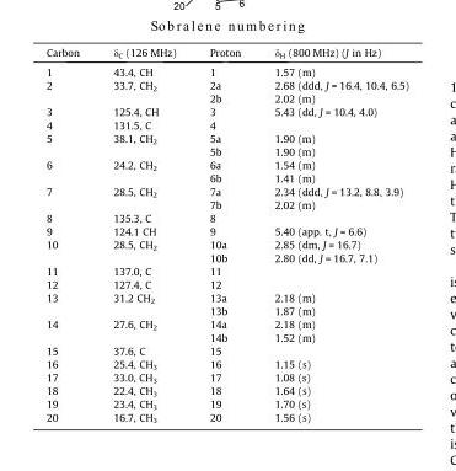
<table><thead><tr><td>Carbon</td><td>δ<sub>C</sub> (126 MHz)</td><td>Proton</td><td>δ<sub>H</sub> (800 MHz) (J in Hz)</td></tr></thead><tbody><tr><td>1</td><td>43.4, CH</td><td>1</td><td>1.57 (m)</td></tr><tr><td rowspan="2">2</td><td rowspan="2">33.7, CH<sub>2</sub></td><td>2a</td><td>2.68 (ddd, J = 16.4, 10.4, 6.5)</td></tr><tr><td>2b</td><td>2.02 (m)</td></tr><tr><td>3</td><td>125.4, CH</td><td>3</td><td>5.43 (dd, J = 10.4, 4.0)</td></tr><tr><td>4</td><td>131.5, C</td><td>4</td><td></td></tr><tr><td rowspan="2">5</td><td rowspan="2">38.1, CH<sub>2</sub></td><td>5a</td><td>1.90 (m)</td></tr><tr><td>5b</td><td>1.90 (m)</td></tr><tr><td rowspan="2">6</td><td rowspan="2">24.2, CH<sub>2</sub></td><td>6a</td><td>1.54 (m)</td></tr><tr><td>6b</td><td>1.41 (m)</td></tr><tr><td rowspan="2">7</td><td rowspan="2">28.5, CH<sub>2</sub></td><td>7a</td><td>2.34 (ddd, J = 13.2, 8.8, 3.9)</td></tr><tr><td>7b</td><td>2.02 (m)</td></tr><tr><td>8</td><td>135.3, C</td><td>8</td><td></td></tr><tr><td>9</td><td>124.1 CH</td><td>9</td><td>5.40 (app. t, J = 6.6)</td></tr><tr><td rowspan="2">10</td><td rowspan="2">28.5, CH<sub>2</sub></td><td>10a</td><td>2.85 (dm, J = 16.7)</td></tr><tr><td>10b</td><td>2.80 (dd, J = 16.7, 7.1)</td></tr><tr><td>11</td><td>137.0, C</td><td>11</td><td></td></tr><tr><td>12</td><td>127.4, C</td><td>12</td><td></td></tr><tr><td rowspan="2">13</td><td rowspan="2">31.2 CH<sub>2</sub></td><td>13a</td><td>2.18 (m)</td></tr><tr><td>13b</td><td>1.87 (m)</td></tr><tr><td rowspan="2">14</td><td rowspan="2">27.6, CH<sub>2</sub></td><td>14a</td><td>2.18 (m)</td></tr><tr><td>14b</td><td>1.52 (m)</td></tr><tr><td>15</td><td>37.6, C</td><td>15</td><td></td></tr><tr><td>16</td><td>25.4, CH<sub>3</sub></td><td>16</td><td>1.15 (s)</td></tr><tr><td>17</td><td>33.0, CH<sub>3</sub></td><td>17</td><td>1.08 (s)</td></tr><tr><td>18</td><td>22.4, CH<sub>3</sub></td><td>18</td><td>1.64 (s)</td></tr><tr><td>19</td><td>23.4, CH<sub>3</sub></td><td>19</td><td>1.70 (s)</td></tr><tr><td>20</td><td>16.7, CH<sub>3</sub></td><td>20</td><td>1.56 (s)</td></tr></tbody></table>